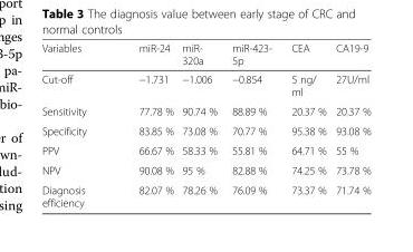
<table><thead><tr><td>Variables</td><td>miR-24</td><td>miR- 320a</td><td>miR-423- 5p</td><td>CEA</td><td>CA19-9</td></tr></thead><tbody><tr><td>Cut-off</td><td>−1.731</td><td>−1.006</td><td>−0.854</td><td>5 ng/ ml</td><td>27U/ml</td></tr><tr><td>Sensitivity</td><td>77.78 %</td><td>90.74 %</td><td>88.89 %</td><td>20.37 %</td><td>20.37 %</td></tr><tr><td>Specificity</td><td>83.85 %</td><td>73.08 %</td><td>70.77 %</td><td>95.38 %</td><td>93.08 %</td></tr><tr><td>PPV</td><td>66.67 %</td><td>58.33 %</td><td>55.81 %</td><td>64.71 %</td><td>55 %</td></tr><tr><td>NPV</td><td>90.08 %</td><td>95 %</td><td>82.88 %</td><td>74.25 %</td><td>73.78 %</td></tr><tr><td>Diagnosis efficiency</td><td>82.07 %</td><td>78.26 %</td><td>76.09 %</td><td>73.37 %</td><td>71.74 %</td></tr></tbody></table>